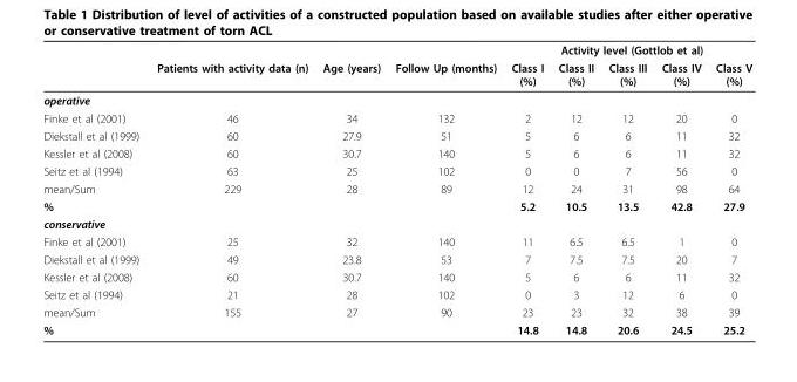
<table><thead><tr><td rowspan="2"></td><td rowspan="2">Patients with activity data (n)</td><td rowspan="2">Age (years)</td><td rowspan="2">Follow Up (months)</td><td colspan="5">Activity level (Gottlob et al)</td></tr><tr><td>Class I (%)</td><td>Class II (%)</td><td>Class III (%)</td><td>Class IV (%)</td><td>Class V (%)</td></tr></thead><tbody><tr><td colspan="9">operative</td></tr><tr><td>Finke et al (2001)</td><td>46</td><td>34</td><td>132</td><td>2</td><td>12</td><td>12</td><td>20</td><td>0</td></tr><tr><td>Diekstall et al (1999)</td><td>60</td><td>27.9</td><td>51</td><td>5</td><td>6</td><td>6</td><td>11</td><td>32</td></tr><tr><td>Kessler et al (2008)</td><td>60</td><td>30.7</td><td>140</td><td>5</td><td>6</td><td>6</td><td>11</td><td>32</td></tr><tr><td>Seitz et al (1994)</td><td>63</td><td>25</td><td>102</td><td>0</td><td>0</td><td>7</td><td>56</td><td>0</td></tr><tr><td>mean/Sum</td><td>229</td><td>28</td><td>89</td><td>12</td><td>24</td><td>31</td><td>98</td><td>64</td></tr><tr><td>%</td><td></td><td></td><td></td><td>5.2</td><td>10.5</td><td>13.5</td><td>42.8</td><td>27.9</td></tr><tr><td colspan="9">conservative</td></tr><tr><td>Finke et al (2001)</td><td>25</td><td>32</td><td>140</td><td>11</td><td>6.5</td><td>6.5</td><td>1</td><td>0</td></tr><tr><td>Diekstall et al (1999)</td><td>49</td><td>23.8</td><td>53</td><td>7</td><td>7.5</td><td>7.5</td><td>20</td><td>7</td></tr><tr><td>Kessler et al (2008)</td><td>60</td><td>30.7</td><td>140</td><td>5</td><td>6</td><td>6</td><td>11</td><td>32</td></tr><tr><td>Seitz et al (1994)</td><td>21</td><td>28</td><td>102</td><td>0</td><td>3</td><td>12</td><td>6</td><td>0</td></tr><tr><td>mean/Sum</td><td>155</td><td>27</td><td>90</td><td>23</td><td>23</td><td>32</td><td>38</td><td>39</td></tr><tr><td>%</td><td></td><td></td><td></td><td>14.8</td><td>14.8</td><td>20.6</td><td>24.5</td><td>25.2</td></tr></tbody></table>